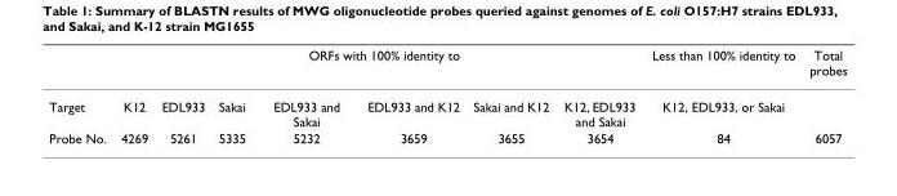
<table><thead><tr><td rowspan="2">Target</td><td rowspan="2">K12</td><td rowspan="2">EDL933</td><td colspan="4">ORFs with 100% identity to</td><td rowspan="2">K12, EDL933 and Sakai</td><td rowspan="2">Less than 100% identity to K12, EDL933, or Sakai</td><td rowspan="2">Total probes</td></tr><tr><td>Sakai</td><td>EDL933 and Sakai</td><td>EDL933 and K12</td><td>Sakai and K12</td></tr></thead><tbody><tr><td>Probe No.</td><td>4269</td><td>5261</td><td>5335</td><td>5232</td><td>3659</td><td>3655</td><td>3654</td><td>84</td><td>6057</td></tr></tbody></table>